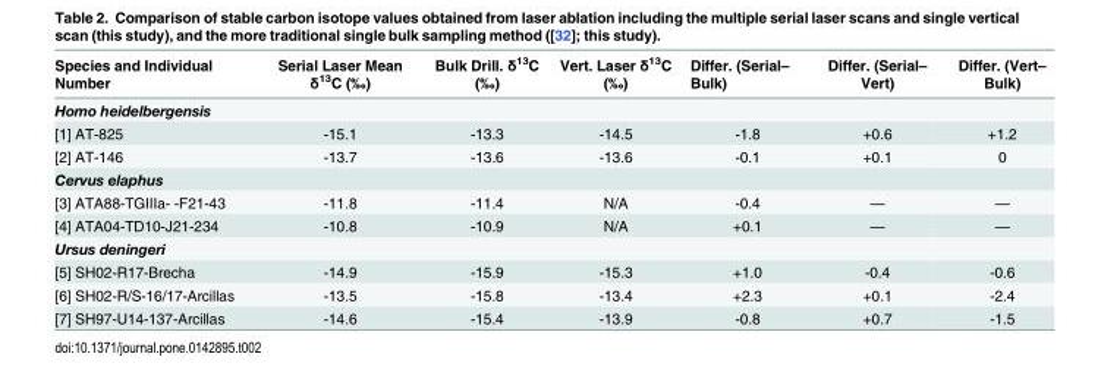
<table><thead><tr><td>Species and Individual Number</td><td>Serial Laser Mean δ<sup>13</sup>C (‰)</td><td>Bulk Drill. δ<sup>13</sup>C (‰)</td><td>Vert. Laser δ<sup>13</sup>C (‰)</td><td>Differ. (Serial– Bulk)</td><td>Differ. (Serial– Vert)</td><td>Differ. (Vert– Bulk)</td></tr></thead><tbody><tr><td colspan="7">Homo heidelbergensis</td></tr><tr><td>[1] AT-825</td><td>-15.1</td><td>-13.3</td><td>-14.5</td><td>-1.8</td><td>+0.6</td><td>+1.2</td></tr><tr><td>[2] AT-146</td><td>-13.7</td><td>-13.6</td><td>-13.6</td><td>-0.1</td><td>+0.1</td><td>0</td></tr><tr><td colspan="7">Cervus elaphus</td></tr><tr><td>[3] ATA88-TGIIIa- -F21-43</td><td>-11.8</td><td>-11.4</td><td>N/A</td><td>-0.4</td><td>—</td><td>—</td></tr><tr><td>[4] ATA04-TD10-J21-234</td><td>-10.8</td><td>-10.9</td><td>N/A</td><td>+0.1</td><td>—</td><td>—</td></tr><tr><td colspan="7">Ursus deningeri</td></tr><tr><td>[5] SH02-R17-Brecha</td><td>-14.9</td><td>-15.9</td><td>-15.3</td><td>+1.0</td><td>-0.4</td><td>-0.6</td></tr><tr><td>[6] SH02-R/S-16/17-Arcillas</td><td>-13.5</td><td>-15.8</td><td>-13.4</td><td>+2.3</td><td>+0.1</td><td>-2.4</td></tr><tr><td>[7] SH97-U14-137-Arcillas</td><td>-14.6</td><td>-15.4</td><td>-13.9</td><td>-0.8</td><td>+0.7</td><td>-1.5</td></tr></tbody></table>